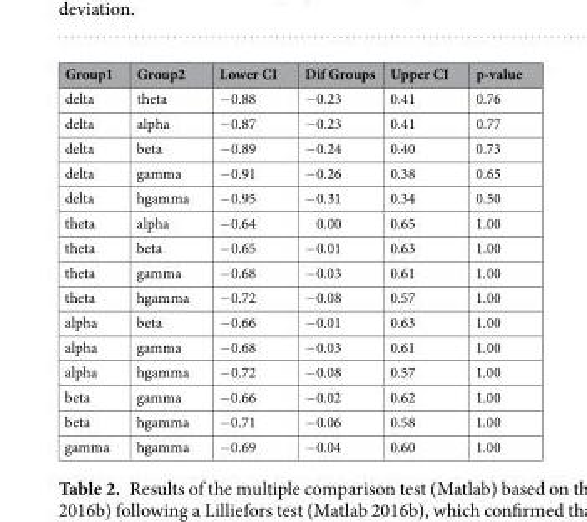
<table><thead><tr><td>Group1</td><td>Group2</td><td>Lower CI</td><td>Dif Groups</td><td>Upper CI</td><td>p-value</td></tr></thead><tbody><tr><td>delta</td><td>theta</td><td>−0.88</td><td>−0.23</td><td>0.41</td><td>0.76</td></tr><tr><td>delta</td><td>alpha</td><td>−0.87</td><td>−0.23</td><td>0.41</td><td>0.77</td></tr><tr><td>delta</td><td>beta</td><td>−0.89</td><td>−0.24</td><td>0.40</td><td>0.73</td></tr><tr><td>delta</td><td>gamma</td><td>−0.91</td><td>−0.26</td><td>0.38</td><td>0.65</td></tr><tr><td>delta</td><td>hgamma</td><td>−0.95</td><td>−0.31</td><td>0.34</td><td>0.50</td></tr><tr><td>theta</td><td>alpha</td><td>−0.64</td><td>0.00</td><td>0.65</td><td>1.00</td></tr><tr><td>theta</td><td>beta</td><td>−0.65</td><td>−0.01</td><td>0.63</td><td>1.00</td></tr><tr><td>theta</td><td>gamma</td><td>−0.68</td><td>−0.03</td><td>0.61</td><td>1.00</td></tr><tr><td>theta</td><td>hgamma</td><td>−0.72</td><td>−0.08</td><td>0.57</td><td>1.00</td></tr><tr><td>alpha</td><td>beta</td><td>−0.66</td><td>−0.01</td><td>0.63</td><td>1.00</td></tr><tr><td>alpha</td><td>gamma</td><td>−0.68</td><td>−0.03</td><td>0.61</td><td>1.00</td></tr><tr><td>alpha</td><td>hgamma</td><td>−0.72</td><td>−0.08</td><td>0.57</td><td>1.00</td></tr><tr><td>beta</td><td>gamma</td><td>−0.66</td><td>−0.02</td><td>0.62</td><td>1.00</td></tr><tr><td>beta</td><td>hgamma</td><td>−0.71</td><td>−0.06</td><td>0.58</td><td>1.00</td></tr><tr><td>gamma</td><td>hgamma</td><td>−0.69</td><td>−0.04</td><td>0.60</td><td>1.00</td></tr></tbody></table>